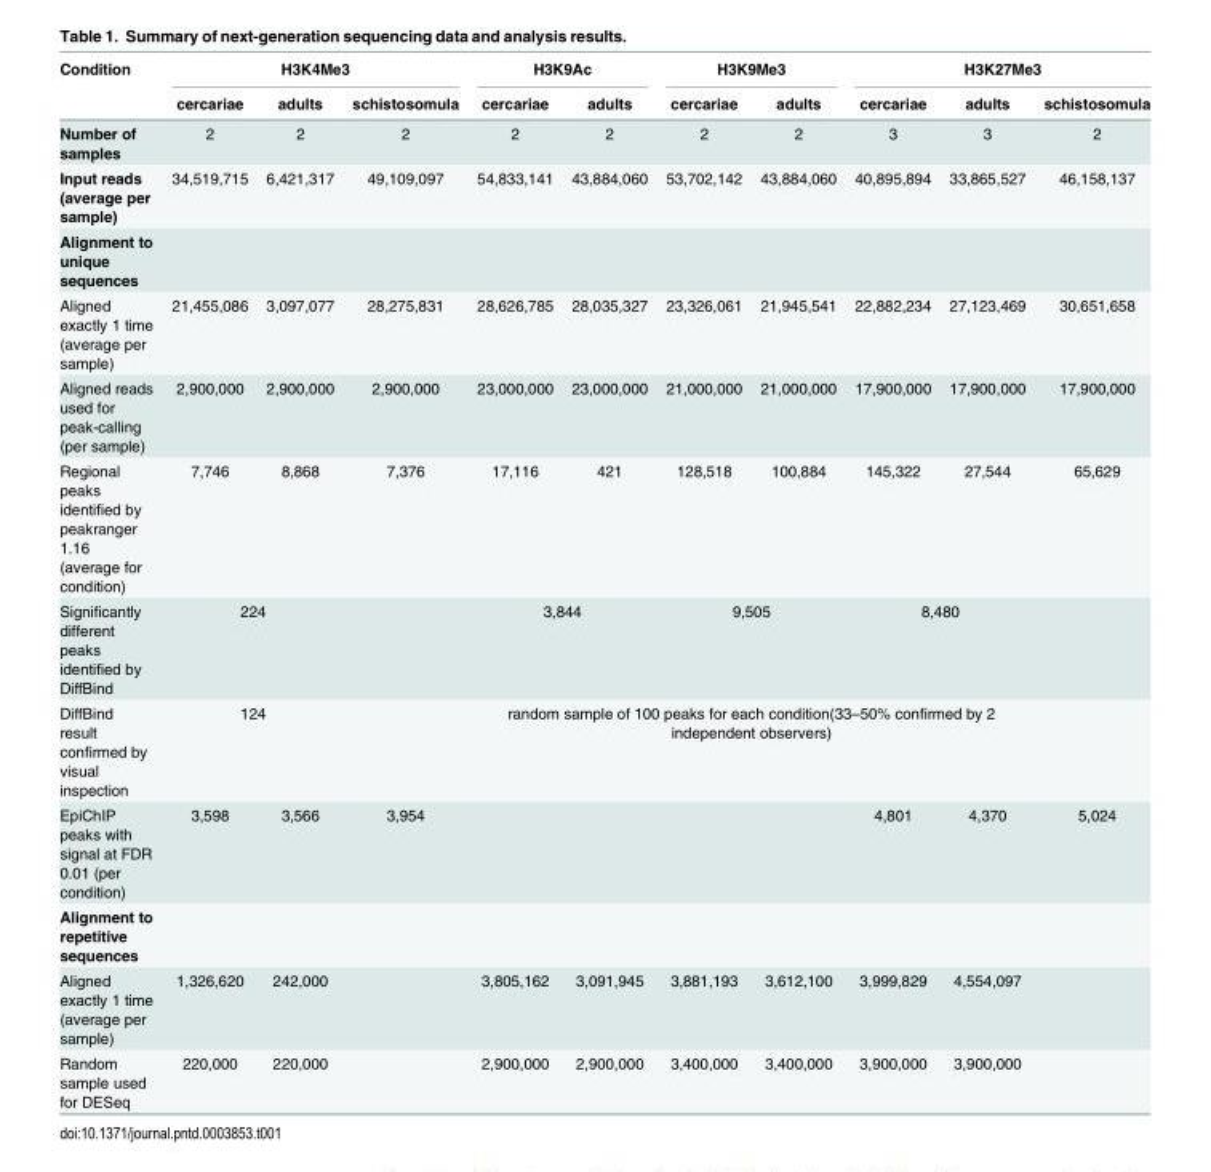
<table><thead><tr><td rowspan="2">Condition</td><td colspan="3">H3K4Me3</td><td colspan="2">H3K9Ac</td><td colspan="2">H3K9Me3</td><td colspan="3">H3K27Me3</td></tr><tr><td>cercariae</td><td>adults</td><td>schistosomula</td><td>cercariae</td><td>adults</td><td>cercariae</td><td>adults</td><td>cercariae</td><td>adults</td><td>schistosomula</td></tr></thead><tbody><tr><td>Number of samples</td><td>2</td><td>2</td><td>2</td><td>2</td><td>2</td><td>2</td><td>2</td><td>3</td><td>3</td><td>2</td></tr><tr><td>Input reads (average per sample)</td><td>34,519,715</td><td>6,421,317</td><td>49,109,097</td><td>54,833,141</td><td>43,884,060</td><td>53,702,142</td><td>43,884,060</td><td>40,895,894</td><td>33,865,527</td><td>46,158,137</td></tr><tr><td colspan="11">Alignment to unique sequences</td></tr><tr><td>Aligned exactly 1 time (average per sample)</td><td>21,455,086</td><td>3,097,077</td><td>28,275,831</td><td>28,626,785</td><td>28,035,327</td><td>23,326,061</td><td>21,945,541</td><td>22,882,234</td><td>27,123,469</td><td>30,651,658</td></tr><tr><td>Aligned reads used for peak-calling (per sample)</td><td>2,900,000</td><td>2,900,000</td><td>2,900,000</td><td>23,000,000</td><td>23,000,000</td><td>21,000,000</td><td>21,000,000</td><td>17,900,000</td><td>17,900,000</td><td>17,900,000</td></tr><tr><td>Regional peaks identified by peakranger 1.16 (average for condition)</td><td>7,746</td><td>8,868</td><td>7,376</td><td>17,116</td><td>421</td><td>128,518</td><td>100,884</td><td>145,322</td><td>27,544</td><td>65,629</td></tr><tr><td>Significantly different peaks identified by DiffBind</td><td colspan="2">224</td><td></td><td colspan="2">3,844</td><td colspan="2">9,505</td><td colspan="2">8,480</td><td></td></tr><tr><td>DiffBind result confirmed by visual inspection</td><td colspan="2">124</td><td></td><td colspan="6">random sample of 100 peaks for each condition(33–50% confirmed by 2 independent observers)</td><td></td></tr><tr><td>EpiChIP peaks with signal at FDR 0.01 (per condition)</td><td>3,598</td><td>3,566</td><td>3,954</td><td></td><td></td><td></td><td></td><td>4,801</td><td>4,370</td><td>5,024</td></tr><tr><td colspan="11">Alignment to repetitive sequences</td></tr><tr><td>Aligned exactly 1 time (average per sample)</td><td>1,326,620</td><td>242,000</td><td></td><td>3,805,162</td><td>3,091,945</td><td>3,881,193</td><td>3,612,100</td><td>3,999,829</td><td>4,554,097</td><td></td></tr><tr><td>Random sample used for DESeq</td><td>220,000</td><td>220,000</td><td></td><td>2,900,000</td><td>2,900,000</td><td>3,400,000</td><td>3,400,000</td><td>3,900,000</td><td>3,900,000</td><td></td></tr></tbody></table>